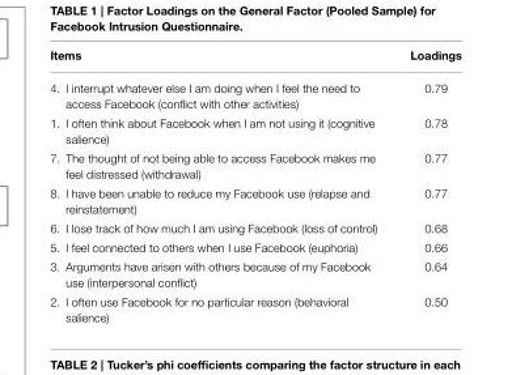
<table><thead><tr><td>Items</td><td>Loadings</td></tr></thead><tbody><tr><td>4. I interrupt whatever else I am doing when I feel the need to access Facebook (conflict with other activities)</td><td>0.79</td></tr><tr><td>1. I often think about Facebook when I am not using it (cognitive salience)</td><td>0.78</td></tr><tr><td>7. The thought of not being able to access Facebook makes me feel distressed (withdrawal)</td><td>0.77</td></tr><tr><td>8. I have been unable to reduce my Facebook use (relapse and reinstatement)</td><td>0.77</td></tr><tr><td>6. I lose track of how much I am using Facebook (loss of control)</td><td>0.68</td></tr><tr><td>5. I feel connected to others when I use Facebook (euphoria)</td><td>0.66</td></tr><tr><td>3. Arguments have arisen with others because of my Facebook use (interpersonal conflict)</td><td>0.64</td></tr><tr><td>2. I often use Facebook for no particular reason (behavioral salience)</td><td>0.50</td></tr></tbody></table>